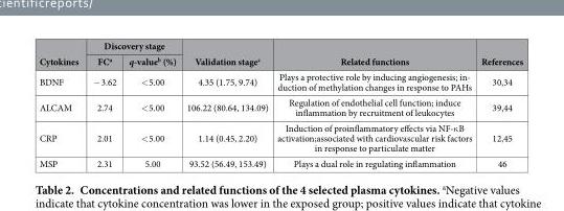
<table><thead><tr><td rowspan="2">Cytokines</td><td colspan="2">Discovery stage</td><td rowspan="2">Validation stage<sup>c</sup></td><td rowspan="2">Related functions</td><td rowspan="2">References</td></tr><tr><td>FC<sup>a</sup></td><td>q-value<sup>b</sup> (%)</td></tr></thead><tbody><tr><td>BDNF</td><td>− 3.62</td><td>&lt; 5.00</td><td>4.35 (1.75, 9.74)</td><td>Plays a protective role by inducing angiogenesis; in- duction of methylation changes in response to PAHs</td><td>30,34</td></tr><tr><td>ALCAM</td><td>2.74</td><td>&lt; 5.00</td><td>106.22 (80.64, 134.09)</td><td>Regulation of endothelial cell function; induce inflammation by recruitment of leukocytes</td><td>39,44</td></tr><tr><td>CRP</td><td>2.01</td><td>&lt; 5.00</td><td>1.14 (0.45, 2.20)</td><td>Induction of proinflammatory effects via NF-κ B activation;associated with cardiovascular risk factors in response to particulate matter</td><td>12,45</td></tr><tr><td>MSP</td><td>2.31</td><td>5.00</td><td>93.52 (56.49, 153.49)</td><td>Plays a dual role in regulating inflammation</td><td>46</td></tr></tbody></table>